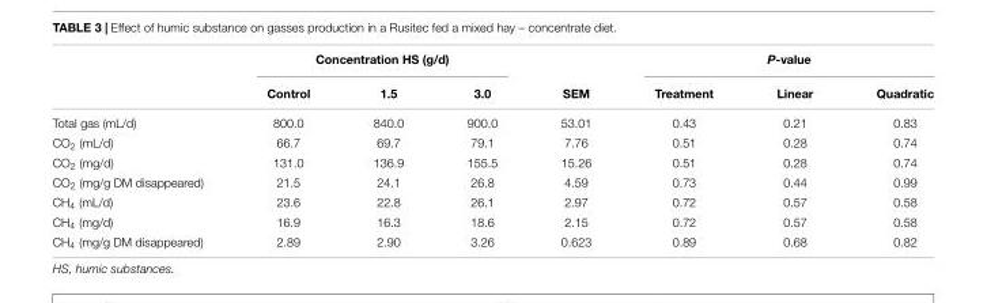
<table><thead><tr><td rowspan="2"></td><td colspan="3">Concentration HS (g/d)</td><td rowspan="2">SEM</td><td colspan="3">P-value</td></tr><tr><td>Control</td><td>1.5</td><td>3.0</td><td>Treatment</td><td>Linear</td><td>Quadratic</td></tr></thead><tbody><tr><td>Total gas (mL/d)</td><td>800.0</td><td>840.0</td><td>900.0</td><td>53.01</td><td>0.43</td><td>0.21</td><td>0.83</td></tr><tr><td>CO<sub>2</sub> (mL/d)</td><td>66.7</td><td>69.7</td><td>79.1</td><td>7.76</td><td>0.51</td><td>0.28</td><td>0.74</td></tr><tr><td>CO<sub>2</sub> (mg/d)</td><td>131.0</td><td>136.9</td><td>155.5</td><td>15.26</td><td>0.51</td><td>0.28</td><td>0.74</td></tr><tr><td>CO<sub>2</sub> (mg/g DM disappeared)</td><td>21.5</td><td>24.1</td><td>26.8</td><td>4.59</td><td>0.73</td><td>0.44</td><td>0.99</td></tr><tr><td>CH<sub>4</sub> (mL/d)</td><td>23.6</td><td>22.8</td><td>26.1</td><td>2.97</td><td>0.72</td><td>0.57</td><td>0.58</td></tr><tr><td>CH<sub>4</sub> (mg/d)</td><td>16.9</td><td>16.3</td><td>18.6</td><td>2.15</td><td>0.72</td><td>0.57</td><td>0.58</td></tr><tr><td>CH<sub>4</sub> (mg/g DM disappeared)</td><td>2.89</td><td>2.90</td><td>3.26</td><td>0.623</td><td>0.89</td><td>0.68</td><td>0.82</td></tr></tbody></table>